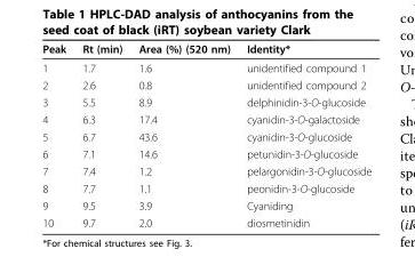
<table><thead><tr><td>Peak</td><td>Rt (min)</td><td>Area (%) (520 nm)</td><td>Identity*</td></tr></thead><tbody><tr><td>1</td><td>1.7</td><td>1.6</td><td>unidentified compound 1</td></tr><tr><td>2</td><td>2.6</td><td>0.8</td><td>unidentified compound 2</td></tr><tr><td>3</td><td>5.5</td><td>8.9</td><td>delphinidin-3-O-glucoside</td></tr><tr><td>4</td><td>6.3</td><td>17.4</td><td>cyanidin-3-O-galactoside</td></tr><tr><td>5</td><td>6.7</td><td>43.6</td><td>cyanidin-3-O-glucoside</td></tr><tr><td>6</td><td>7.1</td><td>14.6</td><td>petunidin-3-O-glucoside</td></tr><tr><td>7</td><td>7.4</td><td>1.2</td><td>pelargonidin-3-O-glucoside</td></tr><tr><td>8</td><td>7.7</td><td>1.1</td><td>peonidin-3-O-glucoside</td></tr><tr><td>9</td><td>9.5</td><td>3.9</td><td>Cyaniding</td></tr><tr><td>10</td><td>9.7</td><td>2.0</td><td>diosmetinidin</td></tr></tbody></table>